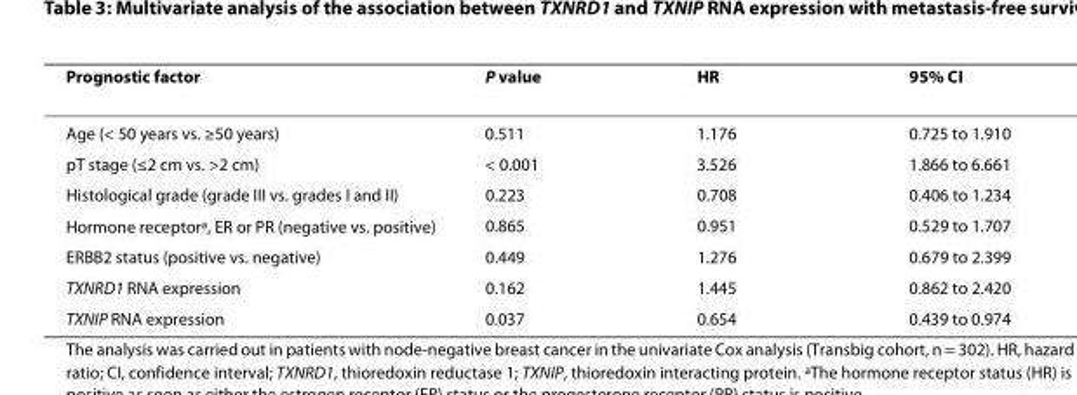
<table><thead><tr><td>Prognostic factor</td><td>P value</td><td>HR</td><td>95% CI</td></tr></thead><tbody><tr><td>Age (&lt; 50 years vs. ≥50 years)</td><td>0.511</td><td>1.176</td><td>0.725 to 1.910</td></tr><tr><td>pT stage (≤2 cm vs. &gt;2 cm)</td><td>&lt; 0.001</td><td>3.526</td><td>1.866 to 6.661</td></tr><tr><td>Histological grade (grade III vs. grades I and II)</td><td>0.223</td><td>0.708</td><td>0.406 to 1.234</td></tr><tr><td>Hormone receptor<sup>a</sup>, ER or PR (negative vs. positive)</td><td>0.865</td><td>0.951</td><td>0.529 to 1.707</td></tr><tr><td>ERBB2 status (positive vs. negative)</td><td>0.449</td><td>1.276</td><td>0.679 to 2.399</td></tr><tr><td>TXNRD1 RNA expression</td><td>0.162</td><td>1.445</td><td>0.862 to 2.420</td></tr><tr><td>TXNIP RNA expression</td><td>0.037</td><td>0.654</td><td>0.439 to 0.974</td></tr></tbody></table>